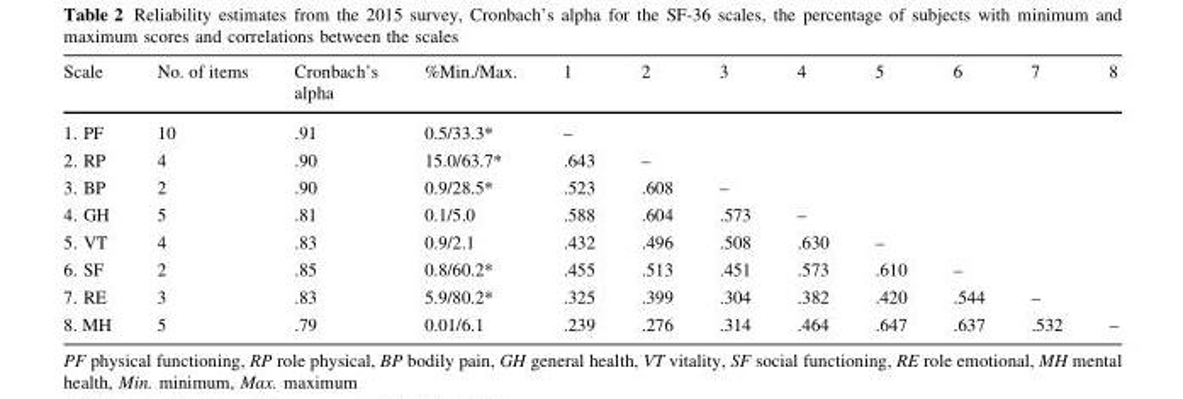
<table><thead><tr><td>Scale</td><td>No. of items</td><td>Cronbach’s alpha</td><td>%Min./Max.</td><td>1</td><td>2</td><td>3</td><td>4</td><td>5</td><td>6</td><td>7</td><td>8</td></tr></thead><tbody><tr><td>1. PF</td><td>10</td><td>.91</td><td>0.5/33.3*</td><td>–</td><td></td><td></td><td></td><td></td><td></td><td></td><td></td></tr><tr><td>2. RP</td><td>4</td><td>.90</td><td>15.0/63.7*</td><td>.643</td><td>–</td><td></td><td></td><td></td><td></td><td></td><td></td></tr><tr><td>3. BP</td><td>2</td><td>.90</td><td>0.9/28.5*</td><td>.523</td><td>.608</td><td>–</td><td></td><td></td><td></td><td></td><td></td></tr><tr><td>4. GH</td><td>5</td><td>.81</td><td>0.1/5.0</td><td>.588</td><td>.604</td><td>.573</td><td>–</td><td></td><td></td><td></td><td></td></tr><tr><td>5. VT</td><td>4</td><td>.83</td><td>0.9/2.1</td><td>.432</td><td>.496</td><td>.508</td><td>.630</td><td>–</td><td></td><td></td><td></td></tr><tr><td>6. SF</td><td>2</td><td>.85</td><td>0.8/60.2*</td><td>.455</td><td>.513</td><td>.451</td><td>.573</td><td>.610</td><td>–</td><td></td><td></td></tr><tr><td>7. RE</td><td>3</td><td>.83</td><td>5.9/80.2*</td><td>.325</td><td>.399</td><td>.304</td><td>.382</td><td>.420</td><td>.544</td><td>–</td><td></td></tr><tr><td>8. MH</td><td>5</td><td>.79</td><td>0.01/6.1</td><td>.239</td><td>.276</td><td>.314</td><td>.464</td><td>.647</td><td>.637</td><td>.532</td><td>–</td></tr></tbody></table>